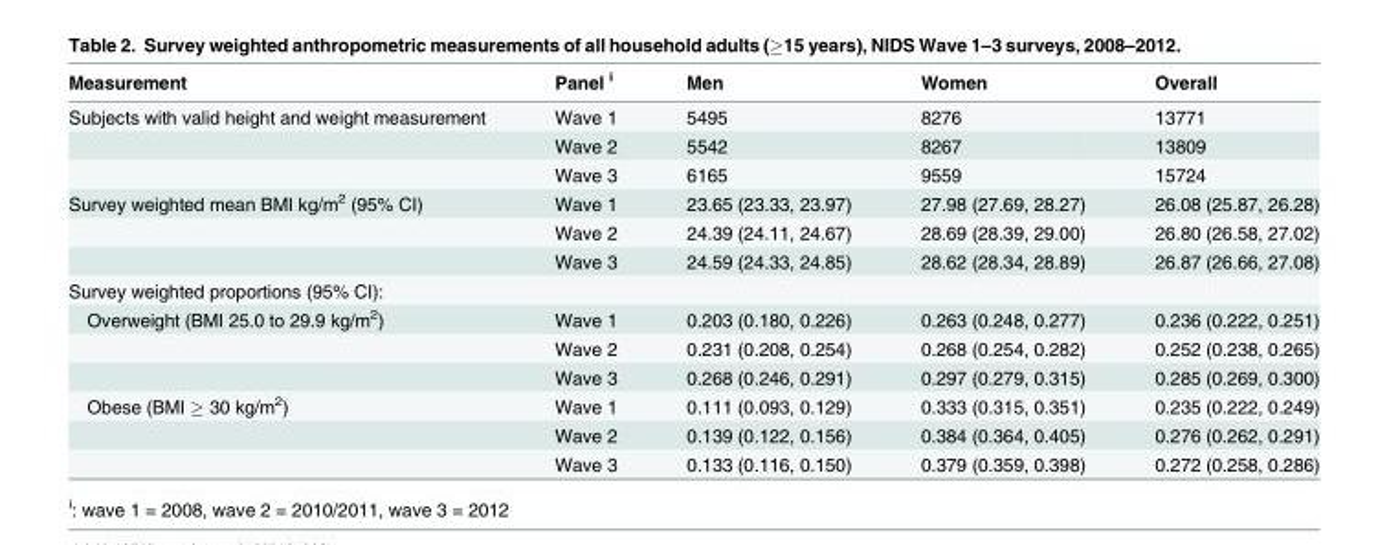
<table><thead><tr><td>Measurement</td><td>Panel <sup>i</sup></td><td>Men</td><td>Women</td><td>Overall</td></tr></thead><tbody><tr><td rowspan="3">Subjects with valid height and weight measurement</td><td>Wave 1</td><td>5495</td><td>8276</td><td>13771</td></tr><tr><td>Wave 2</td><td>5542</td><td>8267</td><td>13809</td></tr><tr><td>Wave 3</td><td>6165</td><td>9559</td><td>15724</td></tr><tr><td rowspan="3">Survey weighted mean BMI kg/m<sup>2</sup> (95% CI)</td><td>Wave 1</td><td>23.65 (23.33, 23.97)</td><td>27.98 (27.69, 28.27)</td><td>26.08 (25.87, 26.28)</td></tr><tr><td>Wave 2</td><td>24.39 (24.11, 24.67)</td><td>28.69 (28.39, 29.00)</td><td>26.80 (26.58, 27.02)</td></tr><tr><td>Wave 3</td><td>24.59 (24.33, 24.85)</td><td>28.62 (28.34, 28.89)</td><td>26.87 (26.66, 27.08)</td></tr><tr><td colspan="5">Survey weighted proportions (95% CI):</td></tr><tr><td rowspan="3">Overweight (BMI 25.0 to 29.9 kg/m<sup>2</sup>)</td><td>Wave 1</td><td>0.203 (0.180, 0.226)</td><td>0.263 (0.248, 0.277)</td><td>0.236 (0.222, 0.251)</td></tr><tr><td>Wave 2</td><td>0.231 (0.208, 0.254)</td><td>0.268 (0.254, 0.282)</td><td>0.252 (0.238, 0.265)</td></tr><tr><td>Wave 3</td><td>0.268 (0.246, 0.291)</td><td>0.297 (0.279, 0.315)</td><td>0.285 (0.269, 0.300)</td></tr><tr><td rowspan="3">Obese (BMI ≥ 30 kg/m<sup>2</sup>)</td><td>Wave 1</td><td>0.111 (0.093, 0.129)</td><td>0.333 (0.315, 0.351)</td><td>0.235 (0.222, 0.249)</td></tr><tr><td>Wave 2</td><td>0.139 (0.122, 0.156)</td><td>0.384 (0.364, 0.405)</td><td>0.276 (0.262, 0.291)</td></tr><tr><td>Wave 3</td><td>0.133 (0.116, 0.150)</td><td>0.379 (0.359, 0.398)</td><td>0.272 (0.258, 0.286)</td></tr></tbody></table>